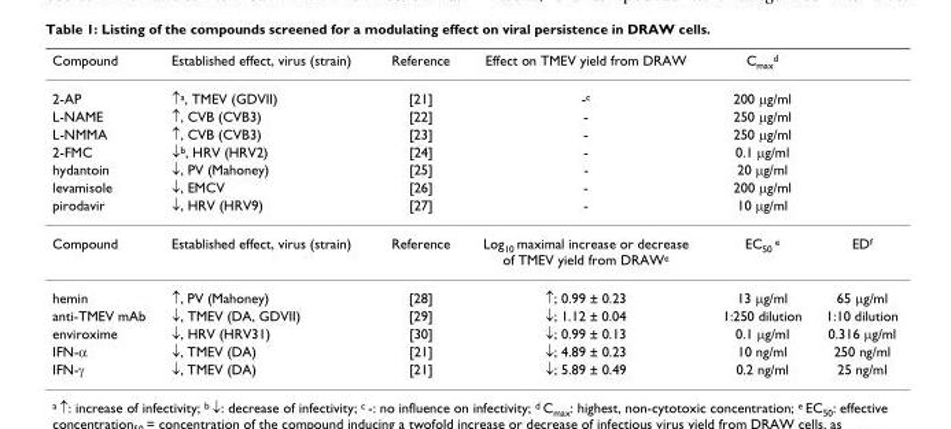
<table><thead><tr><td>Compound</td><td>Established effect, virus (strain)</td><td>Reference</td><td>Effect on TMEV yield from DRAW</td><td>C<sub>max</sub><sup>d</sup></td><td></td></tr></thead><tbody><tr><td>2-AP</td><td>↑<sup>a</sup>, TMEV (GDVII)</td><td>[21]</td><td>-<sup>c</sup></td><td>200 μg/ml</td><td></td></tr><tr><td>L-NAME</td><td>↑, CVB (CVB3)</td><td>[22]</td><td>-</td><td>250 μg/ml</td><td></td></tr><tr><td>L-NMMA</td><td>↑, CVB (CVB3)</td><td>[23]</td><td>-</td><td>250 μg/ml</td><td></td></tr><tr><td>2-FMC</td><td>↓<sup>b</sup>, HRV (HRV2)</td><td>[24]</td><td>-</td><td>0.1 μg/ml</td><td></td></tr><tr><td>hydantoin</td><td>↓, PV (Mahoney)</td><td>[25]</td><td>-</td><td>20 μg/ml</td><td></td></tr><tr><td>levamisole</td><td>↓, EMCV</td><td>[26]</td><td>-</td><td>200 μg/ml</td><td></td></tr><tr><td>pirodavir</td><td>↓, HRV (HRV9)</td><td>[27]</td><td>-</td><td>10 μg/ml</td><td></td></tr><tr><td>Compound</td><td>Established effect, virus (strain)</td><td>Reference</td><td>Log<sub>10</sub> maximal increase or decrease of TMEV yield from DRAW<sup>e</sup></td><td>EC<sub>50</sub> <sup>e</sup></td><td>ED<sup>f</sup></td></tr><tr><td>hemin</td><td>↑, PV (Mahoney)</td><td>[28]</td><td>↑; 0.99 ± 0.23</td><td>13 μg/ml</td><td>65 μg/ml</td></tr><tr><td>anti-TMEV mAb</td><td>↓, TMEV (DA, GDVII)</td><td>[29]</td><td>↓; 1.12 ± 0.04</td><td>1:250 dilution</td><td>1:10 dilution</td></tr><tr><td>enviroxime</td><td>↓, HRV (HRV31)</td><td>[30]</td><td>↓; 0.99 ± 0.13</td><td>0.1 μg/ml</td><td>0.316 μg/ml</td></tr><tr><td>IFN-α</td><td>↓, TMEV (DA)</td><td>[21]</td><td>↓; 4.89 ± 0.23</td><td>10 ng/ml</td><td>250 ng/ml</td></tr><tr><td>IFN-γ</td><td>↓, TMEV (DA)</td><td>[21]</td><td>↓; 5.89 ± 0.49</td><td>0.2 ng/ml</td><td>25 ng/ml</td></tr></tbody></table>